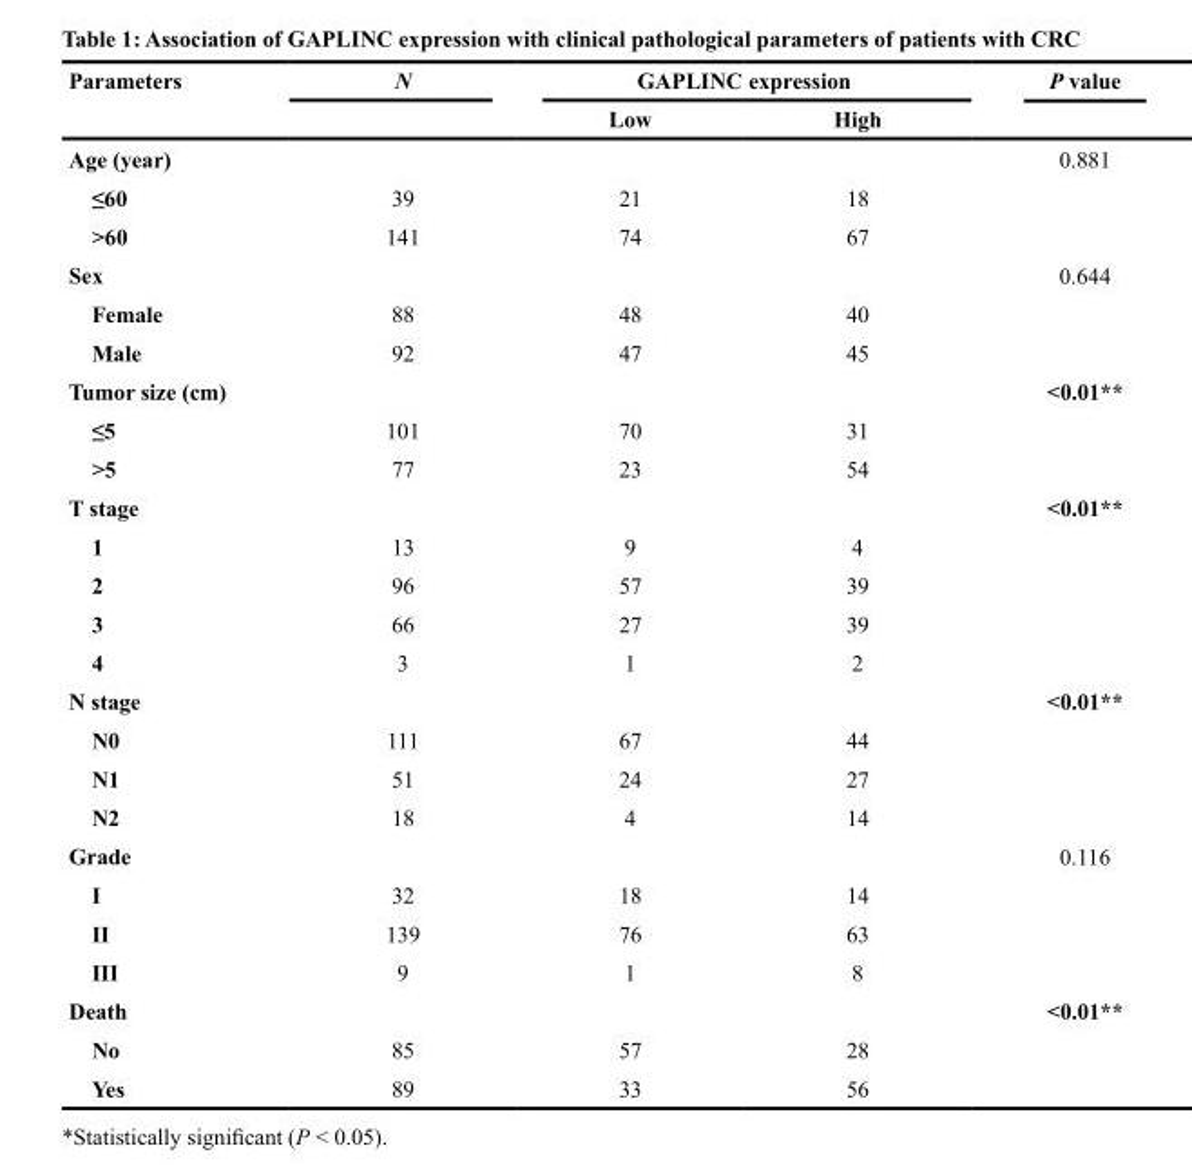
<table><thead><tr><td rowspan="2">Parameters</td><td rowspan="2">N</td><td colspan="2">GAPLINC expression</td><td rowspan="2">P value</td></tr><tr><td>Low</td><td>High</td></tr></thead><tbody><tr><td>Age (year)</td><td></td><td></td><td></td><td>0.881</td></tr><tr><td>≤60</td><td>39</td><td>21</td><td>18</td><td></td></tr><tr><td>&gt;60</td><td>141</td><td>74</td><td>67</td><td></td></tr><tr><td>Sex</td><td></td><td></td><td></td><td>0.644</td></tr><tr><td>Female</td><td>88</td><td>48</td><td>40</td><td></td></tr><tr><td>Male</td><td>92</td><td>47</td><td>45</td><td></td></tr><tr><td>Tumor size (cm)</td><td></td><td></td><td></td><td>&lt;0.01**</td></tr><tr><td>≤5</td><td>101</td><td>70</td><td>31</td><td></td></tr><tr><td>&gt;5</td><td>77</td><td>23</td><td>54</td><td></td></tr><tr><td>T stage</td><td></td><td></td><td></td><td>&lt;0.01**</td></tr><tr><td>1</td><td>13</td><td>9</td><td>4</td><td></td></tr><tr><td>2</td><td>96</td><td>57</td><td>39</td><td></td></tr><tr><td>3</td><td>66</td><td>27</td><td>39</td><td></td></tr><tr><td>4</td><td>3</td><td>1</td><td>2</td><td></td></tr><tr><td>N stage</td><td></td><td></td><td></td><td>&lt;0.01**</td></tr><tr><td>N0</td><td>111</td><td>67</td><td>44</td><td></td></tr><tr><td>N1</td><td>51</td><td>24</td><td>27</td><td></td></tr><tr><td>N2</td><td>18</td><td>4</td><td>14</td><td></td></tr><tr><td>Grade</td><td></td><td></td><td></td><td>0.116</td></tr><tr><td>I</td><td>32</td><td>18</td><td>14</td><td></td></tr><tr><td>II</td><td>139</td><td>76</td><td>63</td><td></td></tr><tr><td>III</td><td>9</td><td>1</td><td>8</td><td></td></tr><tr><td>Death</td><td></td><td></td><td></td><td>&lt;0.01**</td></tr><tr><td>No</td><td>85</td><td>57</td><td>28</td><td></td></tr><tr><td>Yes</td><td>89</td><td>33</td><td>56</td><td></td></tr></tbody></table>